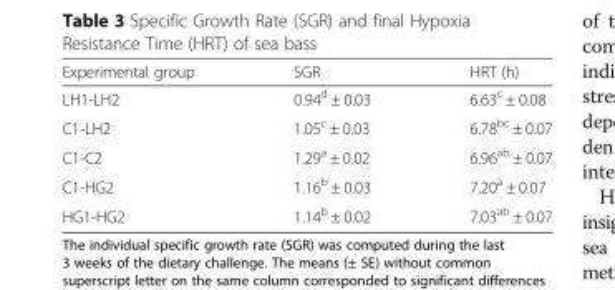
<table><thead><tr><td>Experimental group</td><td>SGR</td><td>HRT (h)</td></tr></thead><tbody><tr><td>LH1-LH2</td><td>0.94<sup>d</sup> ± 0.03</td><td>6.63<sup>c</sup> ± 0.08</td></tr><tr><td>C1-LH2</td><td>1.05<sup>c</sup> ± 0.03</td><td>6.78<sup>bc</sup> ± 0.07</td></tr><tr><td>C1-C2</td><td>1.29<sup>a</sup> ± 0.02</td><td>6.96<sup>ab</sup> ± 0.07</td></tr><tr><td>C1-HG2</td><td>1.16<sup>b</sup> ± 0.03</td><td>7.20<sup>a</sup> ± 0.07</td></tr><tr><td>HG1-HG2</td><td>1.14<sup>b</sup> ± 0.02</td><td>7.03<sup>ab</sup> ± 0.07</td></tr></tbody></table>